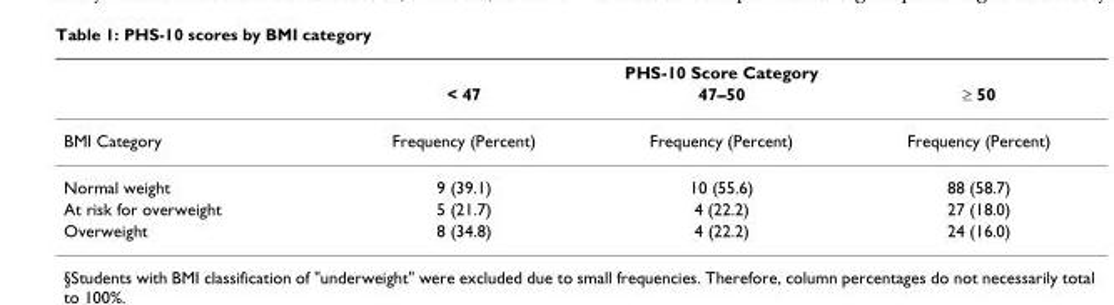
<table><thead><tr><td rowspan="2"></td><td colspan="3">PHS-10 Score Category</td></tr><tr><td>&lt; 47</td><td>47–50</td><td>≥ 50</td></tr></thead><tbody><tr><td>BMI Category</td><td>Frequency (Percent)</td><td>Frequency (Percent)</td><td>Frequency (Percent)</td></tr><tr><td>Normal weight</td><td>9 (39.1)</td><td>10 (55.6)</td><td>88 (58.7)</td></tr><tr><td>At risk for overweight</td><td>5 (21.7)</td><td>4 (22.2)</td><td>27 (18.0)</td></tr><tr><td>Overweight</td><td>8 (34.8)</td><td>4 (22.2)</td><td>24 (16.0)</td></tr></tbody></table>